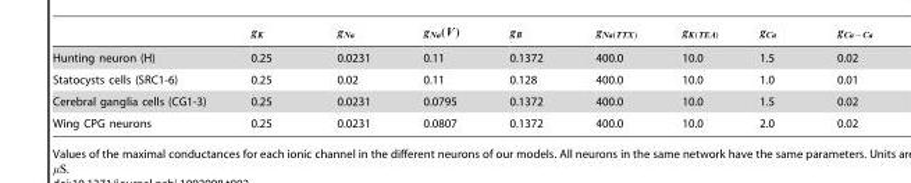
<table><tbody><tr><td>Hunting neuron (H)</td><td>0.25</td><td>0.0231</td><td>0.11</td><td>0.1372</td><td>400.0</td><td>10.0</td><td>1.5</td><td>0.02</td></tr><tr><td>Statocysts cells (SRC1-6)</td><td>0.25</td><td>0.02</td><td>0.11</td><td>0.128</td><td>400.0</td><td>10.0</td><td>1.0</td><td>0.01</td></tr><tr><td>Cerebral ganglia cells (CG1-3)</td><td>0.25</td><td>0.0231</td><td>0.0795</td><td>0.1372</td><td>400.0</td><td>10.0</td><td>1.5</td><td>0.02</td></tr><tr><td>Wing CPG neurons</td><td>0.25</td><td>0.0231</td><td>0.0807</td><td>0.1372</td><td>400.0</td><td>10.0</td><td>2.0</td><td>0.02</td></tr></tbody></table>